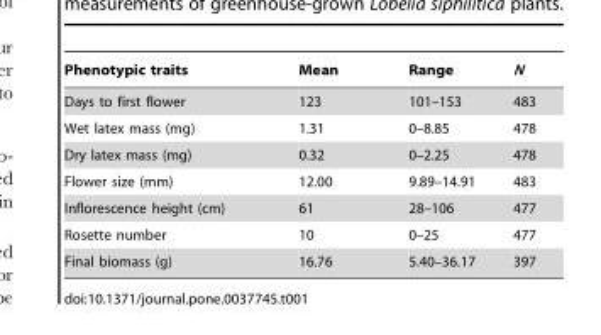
<table><thead><tr><td>Phenotypic traits</td><td>Mean</td><td>Range</td><td>N</td></tr></thead><tbody><tr><td>Days to first flower</td><td>123</td><td>101–153</td><td>483</td></tr><tr><td>Wet latex mass (mg)</td><td>1.31</td><td>0–8.85</td><td>478</td></tr><tr><td>Dry latex mass (mg)</td><td>0.32</td><td>0–2.25</td><td>478</td></tr><tr><td>Flower size (mm)</td><td>12.00</td><td>9.89–14.91</td><td>483</td></tr><tr><td>Inflorescence height (cm)</td><td>61</td><td>28–106</td><td>477</td></tr><tr><td>Rosette number</td><td>10</td><td>0–25</td><td>477</td></tr><tr><td>Final biomass (g)</td><td>16.76</td><td>5.40–36.17</td><td>397</td></tr></tbody></table>